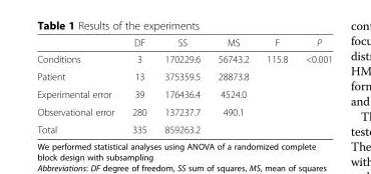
<table><thead><tr><td></td><td>DF</td><td>SS</td><td>MS</td><td>F</td><td>P</td></tr></thead><tbody><tr><td>Conditions</td><td>3</td><td>170229.6</td><td>56743.2</td><td>115.8</td><td>&lt;0.001</td></tr><tr><td>Patient</td><td>13</td><td>375359.5</td><td>28873.8</td><td></td><td></td></tr><tr><td>Experimental error</td><td>39</td><td>176436.4</td><td>4524.0</td><td></td><td></td></tr><tr><td>Observational error</td><td>280</td><td>137237.7</td><td>490.1</td><td></td><td></td></tr><tr><td>Total</td><td>335</td><td>859263.2</td><td></td><td></td><td></td></tr></tbody></table>